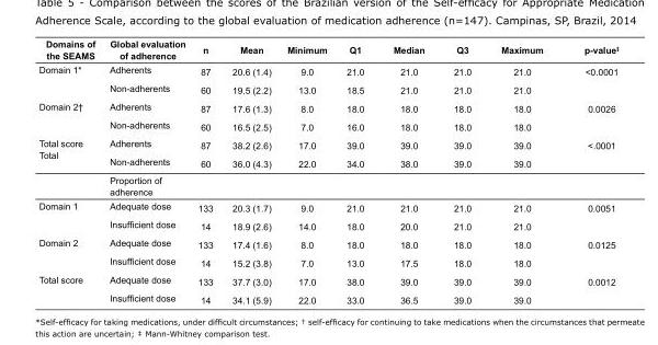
<table><tbody><tr><td>Domains of the SEAMS</td><td>Global evaluation of adherence</td><td>n</td><td>Mean</td><td>Minimum</td><td>Q1</td><td>Median</td><td>Q3</td><td>Maximum</td><td>p-value<sup>‡</sup></td></tr><tr><td rowspan="2">Domain 1*</td><td>Adherents</td><td>87</td><td>20.6 (1.4)</td><td>9.0</td><td>21.0</td><td>21.0</td><td>21.0</td><td>21.0</td><td>&lt;0.0001</td></tr><tr><td>Non-adherents</td><td>60</td><td>19.5 (2.2)</td><td>13.0</td><td>18.5</td><td>21.0</td><td>21.0</td><td>21.0</td><td></td></tr><tr><td rowspan="2">Domain 2†</td><td>Adherents</td><td>87</td><td>17.6 (1.3)</td><td>8.0</td><td>18.0</td><td>18.0</td><td>18.0</td><td>18.0</td><td>0.0026</td></tr><tr><td>Non-adherents</td><td>60</td><td>16.5 (2.5)</td><td>7.0</td><td>16.0</td><td>18.0</td><td>18.0</td><td>18.0</td><td></td></tr><tr><td rowspan="3">Total score Total</td><td>Adherents</td><td>87</td><td>38.2 (2.6)</td><td>17.0</td><td>39.0</td><td>39.0</td><td>39.0</td><td>39.0</td><td>&lt;.0001</td></tr><tr><td>Non-adherents</td><td>60</td><td>36.0 (4.3)</td><td>22.0</td><td>34.0</td><td>38.0</td><td>39.0</td><td>39.0</td><td></td></tr><tr><td>Proportion of adherence</td><td></td><td></td><td></td><td></td><td></td><td></td><td></td><td></td></tr><tr><td rowspan="2">Domain 1</td><td>Adequate dose</td><td>133</td><td>20.3 (1.7)</td><td>9.0</td><td>21.0</td><td>21.0</td><td>21.0</td><td>21.0</td><td>0.0051</td></tr><tr><td>Insufficient dose</td><td>14</td><td>18.9 (2.6)</td><td>14.0</td><td>18.0</td><td>20.0</td><td>21.0</td><td>21.0</td><td></td></tr><tr><td rowspan="2">Domain 2</td><td>Adequate dose</td><td>133</td><td>17.4 (1.6)</td><td>8.0</td><td>18.0</td><td>18.0</td><td>18.0</td><td>18.0</td><td>0.0125</td></tr><tr><td>Insufficient dose</td><td>14</td><td>15.2 (3.8)</td><td>7.0</td><td>13.0</td><td>17.5</td><td>18.0</td><td>18.0</td><td></td></tr><tr><td rowspan="2">Total score</td><td>Adequate dose</td><td>133</td><td>37.7 (3.0)</td><td>17.0</td><td>38.0</td><td>39.0</td><td>39.0</td><td>39.0</td><td>0.0012</td></tr><tr><td>Insufficient dose</td><td>14</td><td>34.1 (5.9)</td><td>22.0</td><td>33.0</td><td>36.5</td><td>39.0</td><td>39.0</td><td></td></tr></tbody></table>